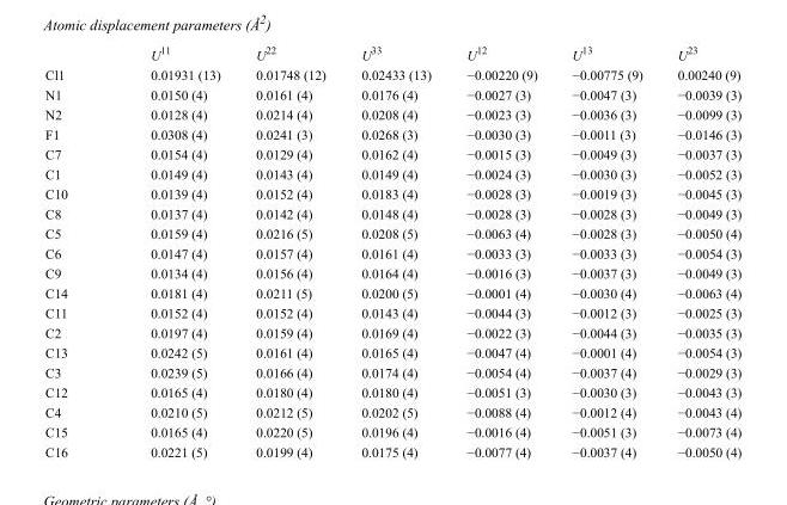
<table><thead><tr><td></td><td>U<sup>11</sup></td><td>U<sup>22</sup></td><td>U<sup>33</sup></td><td>U<sup>12</sup></td><td>U<sup>13</sup></td><td>U<sup>23</sup></td></tr></thead><tbody><tr><td>Cl1</td><td>0.01931 (13)</td><td>0.01748 (12)</td><td>0.02433 (13)</td><td>−0.00220 (9)</td><td>−0.00775 (9)</td><td>0.00240 (9)</td></tr><tr><td>N1</td><td>0.0150 (4)</td><td>0.0161 (4)</td><td>0.0176 (4)</td><td>−0.0027 (3)</td><td>−0.0047 (3)</td><td>−0.0039 (3)</td></tr><tr><td>N2</td><td>0.0128 (4)</td><td>0.0214 (4)</td><td>0.0208 (4)</td><td>−0.0023 (3)</td><td>−0.0036 (3)</td><td>−0.0099 (3)</td></tr><tr><td>F1</td><td>0.0308 (4)</td><td>0.0241 (3)</td><td>0.0268 (3)</td><td>−0.0030 (3)</td><td>−0.0011 (3)</td><td>−0.0146 (3)</td></tr><tr><td>C7</td><td>0.0154 (4)</td><td>0.0129 (4)</td><td>0.0162 (4)</td><td>−0.0015 (3)</td><td>−0.0049 (3)</td><td>−0.0037 (3)</td></tr><tr><td>C1</td><td>0.0149 (4)</td><td>0.0143 (4)</td><td>0.0149 (4)</td><td>−0.0024 (3)</td><td>−0.0030 (3)</td><td>−0.0052 (3)</td></tr><tr><td>C10</td><td>0.0139 (4)</td><td>0.0152 (4)</td><td>0.0183 (4)</td><td>−0.0028 (3)</td><td>−0.0019 (3)</td><td>−0.0045 (3)</td></tr><tr><td>C8</td><td>0.0137 (4)</td><td>0.0142 (4)</td><td>0.0148 (4)</td><td>−0.0028 (3)</td><td>−0.0028 (3)</td><td>−0.0049 (3)</td></tr><tr><td>C5</td><td>0.0159 (4)</td><td>0.0216 (5)</td><td>0.0208 (5)</td><td>−0.0063 (4)</td><td>−0.0028 (3)</td><td>−0.0050 (4)</td></tr><tr><td>C6</td><td>0.0147 (4)</td><td>0.0157 (4)</td><td>0.0161 (4)</td><td>−0.0033 (3)</td><td>−0.0033 (3)</td><td>−0.0054 (3)</td></tr><tr><td>C9</td><td>0.0134 (4)</td><td>0.0156 (4)</td><td>0.0164 (4)</td><td>−0.0016 (3)</td><td>−0.0037 (3)</td><td>−0.0049 (3)</td></tr><tr><td>C14</td><td>0.0181 (4)</td><td>0.0211 (5)</td><td>0.0200 (5)</td><td>−0.0001 (4)</td><td>−0.0030 (4)</td><td>−0.0063 (4)</td></tr><tr><td>C11</td><td>0.0152 (4)</td><td>0.0152 (4)</td><td>0.0143 (4)</td><td>−0.0044 (3)</td><td>−0.0012 (3)</td><td>−0.0025 (3)</td></tr><tr><td>C2</td><td>0.0197 (4)</td><td>0.0159 (4)</td><td>0.0169 (4)</td><td>−0.0022 (3)</td><td>−0.0044 (3)</td><td>−0.0035 (3)</td></tr><tr><td>C13</td><td>0.0242 (5)</td><td>0.0161 (4)</td><td>0.0165 (4)</td><td>−0.0047 (4)</td><td>−0.0001 (4)</td><td>−0.0054 (3)</td></tr><tr><td>C3</td><td>0.0239 (5)</td><td>0.0166 (4)</td><td>0.0174 (4)</td><td>−0.0054 (4)</td><td>−0.0037 (4)</td><td>−0.0029 (3)</td></tr><tr><td>C12</td><td>0.0165 (4)</td><td>0.0180 (4)</td><td>0.0180 (4)</td><td>−0.0051 (3)</td><td>−0.0030 (3)</td><td>−0.0043 (3)</td></tr><tr><td>C4</td><td>0.0210 (5)</td><td>0.0212 (5)</td><td>0.0202 (5)</td><td>−0.0088 (4)</td><td>−0.0012 (4)</td><td>−0.0043 (4)</td></tr><tr><td>C15</td><td>0.0165 (4)</td><td>0.0220 (5)</td><td>0.0196 (4)</td><td>−0.0016 (4)</td><td>−0.0051 (3)</td><td>−0.0073 (4)</td></tr><tr><td>C16</td><td>0.0221 (5)</td><td>0.0199 (4)</td><td>0.0175 (4)</td><td>−0.0077 (4)</td><td>−0.0037 (4)</td><td>−0.0050 (4)</td></tr></tbody></table>